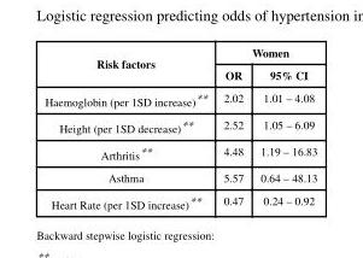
<table><thead><tr><td rowspan="2">Risk factors</td><td colspan="2">Women</td></tr><tr><td>OR</td><td>95% CI</td></tr></thead><tbody><tr><td>Haemoglobin (per 1SD increase)**</td><td>2.02</td><td>1.01 – 4.08</td></tr><tr><td>Height (per 1SD decrease)**</td><td>2.52</td><td>1.05 – 6.09</td></tr><tr><td>Arthritis**</td><td>4.48</td><td>1.19 – 16.83</td></tr><tr><td>Asthma</td><td>5.57</td><td>0.64 – 48.13</td></tr><tr><td>Heart Rate (per 1SD increase)**</td><td>0.47</td><td>0.24 – 0.92</td></tr></tbody></table>